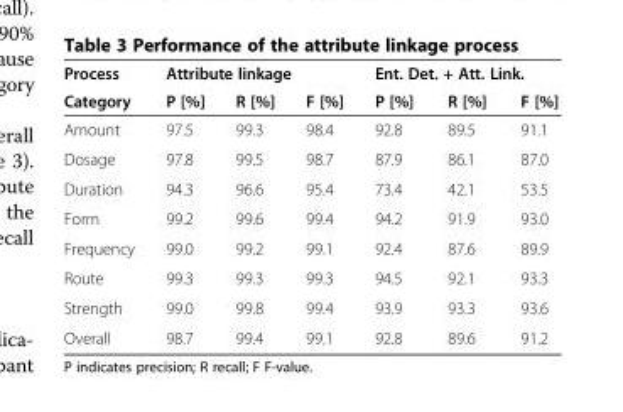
<table><thead><tr><td rowspan="2">Process Category</td><td colspan="3">Attribute linkage</td><td colspan="3">Ent. Det. + Att. Link.</td></tr><tr><td>P [%]</td><td>R [%]</td><td>F [%]</td><td>P [%]</td><td>R [%]</td><td>F [%]</td></tr></thead><tbody><tr><td>Amount</td><td>97.5</td><td>99.3</td><td>98.4</td><td>92.8</td><td>89.5</td><td>91.1</td></tr><tr><td>Dosage</td><td>97.8</td><td>99.5</td><td>98.7</td><td>87.9</td><td>86.1</td><td>87.0</td></tr><tr><td>Duration</td><td>94.3</td><td>96.6</td><td>95.4</td><td>73.4</td><td>42.1</td><td>53.5</td></tr><tr><td>Form</td><td>99.2</td><td>99.6</td><td>99.4</td><td>94.2</td><td>91.9</td><td>93.0</td></tr><tr><td>Frequency</td><td>99.0</td><td>99.2</td><td>99.1</td><td>92.4</td><td>87.6</td><td>89.9</td></tr><tr><td>Route</td><td>99.3</td><td>99.3</td><td>99.3</td><td>94.5</td><td>92.1</td><td>93.3</td></tr><tr><td>Strength</td><td>99.0</td><td>99.8</td><td>99.4</td><td>93.9</td><td>93.3</td><td>93.6</td></tr><tr><td>Overall</td><td>98.7</td><td>99.4</td><td>99.1</td><td>92.8</td><td>89.6</td><td>91.2</td></tr></tbody></table>